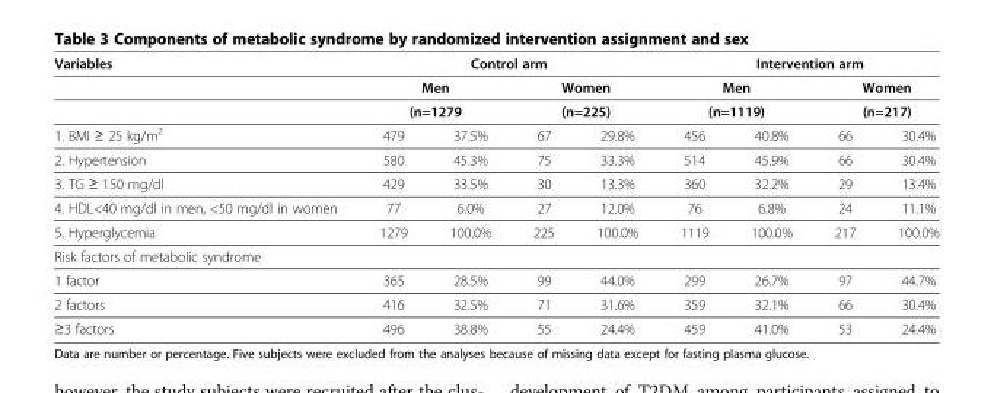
<table><thead><tr><td rowspan="4">Variables 1. BMI ≥ 25 kg/m<sup>2</sup></td><td colspan="4">Control arm</td><td colspan="4">Intervention arm</td></tr><tr><td rowspan="2" colspan="2">Men (n=1279</td><td rowspan="2" colspan="2">Women (n=225)</td><td rowspan="2" colspan="2">Men (n=1119)</td><td rowspan="2" colspan="2">Women (n=217)</td></tr><tr></tr><tr><td>479</td><td>37.5%</td><td>67</td><td>29.8%</td><td>456</td><td>40.8%</td><td>66</td><td>30.4%</td></tr></thead><tbody><tr><td>2. Hypertension</td><td>580</td><td>45.3%</td><td>75</td><td>33.3%</td><td>514</td><td>45.9%</td><td>66</td><td>30.4%</td></tr><tr><td>3. TG ≥ 150 mg/dl</td><td>429</td><td>33.5%</td><td>30</td><td>13.3%</td><td>360</td><td>32.2%</td><td>29</td><td>13.4%</td></tr><tr><td>4. HDL&lt;40 mg/dl in men, &lt;50 mg/dl in women</td><td>77</td><td>6.0%</td><td>27</td><td>12.0%</td><td>76</td><td>6.8%</td><td>24</td><td>11.1%</td></tr><tr><td>5. Hyperglycemia</td><td>1279</td><td>100.0%</td><td>225</td><td>100.0%</td><td>1119</td><td>100.0%</td><td>217</td><td>100.0%</td></tr><tr><td colspan="9">Risk factors of metabolic syndrome</td></tr><tr><td>1 factor</td><td>365</td><td>28.5%</td><td>99</td><td>44.0%</td><td>299</td><td>26.7%</td><td>97</td><td>44.7%</td></tr><tr><td>2 factors</td><td>416</td><td>32.5%</td><td>71</td><td>31.6%</td><td>359</td><td>32.1%</td><td>66</td><td>30.4%</td></tr><tr><td>≥3 factors</td><td>496</td><td>38.8%</td><td>55</td><td>24.4%</td><td>459</td><td>41.0%</td><td>53</td><td>24.4%</td></tr></tbody></table>